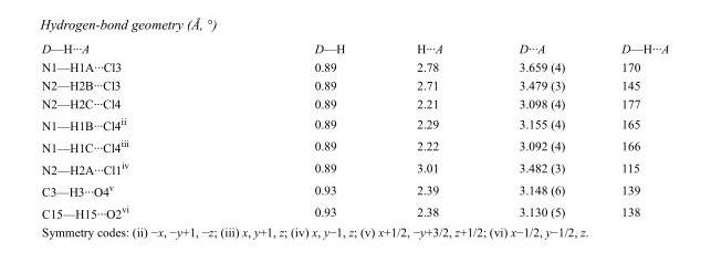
<table><tbody><tr><td>D—H···A</td><td>D—H</td><td>H···A</td><td>D···A</td><td>D—H···A</td></tr><tr><td>N1—H1A···Cl3</td><td>0.89</td><td>2.78</td><td>3.659 (4)</td><td>170</td></tr><tr><td>N2—H2B···Cl3</td><td>0.89</td><td>2.71</td><td>3.479 (3)</td><td>145</td></tr><tr><td>N2—H2C···Cl4</td><td>0.89</td><td>2.21</td><td>3.098 (4)</td><td>177</td></tr><tr><td>N1—H1B···Cl4<sup>ii</sup></td><td>0.89</td><td>2.29</td><td>3.155 (4)</td><td>165</td></tr><tr><td>N1—H1C···Cl4<sup>iii</sup></td><td>0.89</td><td>2.22</td><td>3.092 (4)</td><td>166</td></tr><tr><td>N2—H2A···Cl1<sup>iv</sup></td><td>0.89</td><td>3.01</td><td>3.482 (3)</td><td>115</td></tr><tr><td>C3—H3···O4<sup>v</sup></td><td>0.93</td><td>2.39</td><td>3.148 (6)</td><td>139</td></tr><tr><td>C15—H15···O2<sup>vi</sup></td><td>0.93</td><td>2.38</td><td>3.130 (5)</td><td>138</td></tr></tbody></table>